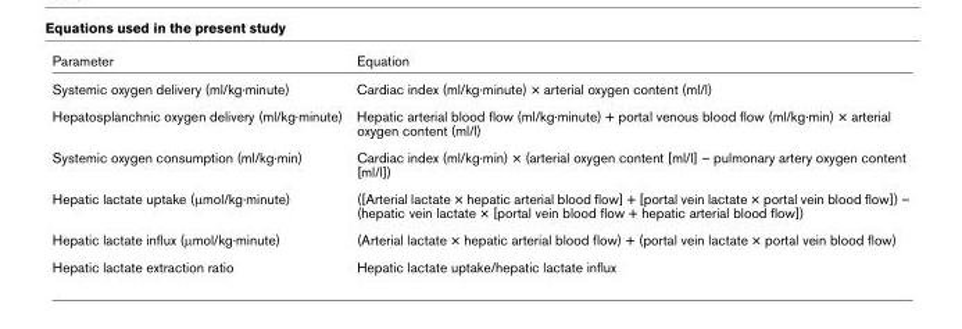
<table><thead><tr><td>Parameter</td><td>Equation</td></tr></thead><tbody><tr><td>Systemic oxygen delivery (ml/kg·minute)</td><td>Cardiac index (ml/kg·minute) × arterial oxygen content (ml/l)</td></tr><tr><td>Hepatosplanchnic oxygen delivery (ml/kg·minute)</td><td>Hepatic arterial blood flow (ml/kg·minute) + portal venous blood flow (ml/kg·min) × arterial oxygen content (ml/l)</td></tr><tr><td>Systemic oxygen consumption (ml/kg·min)</td><td>Cardiac index (ml/kg·min) × (arterial oxygen content [ml/l] – pulmonary artery oxygen content [ml/l])</td></tr><tr><td>Hepatic lactate uptake (μmol/kg·minute)</td><td>([Arterial lactate × hepatic arterial blood flow] + [portal vein lactate × portal vein blood flow]) – (hepatic vein lactate × [portal vein blood flow + hepatic arterial blood flow])</td></tr><tr><td>Hepatic lactate influx (μmol/kg·minute)</td><td>(Arterial lactate × hepatic arterial blood flow) + (portal vein lactate × portal vein blood flow)</td></tr><tr><td>Hepatic lactate extraction ratio</td><td>Hepatic lactate uptake/hepatic lactate influx</td></tr></tbody></table>